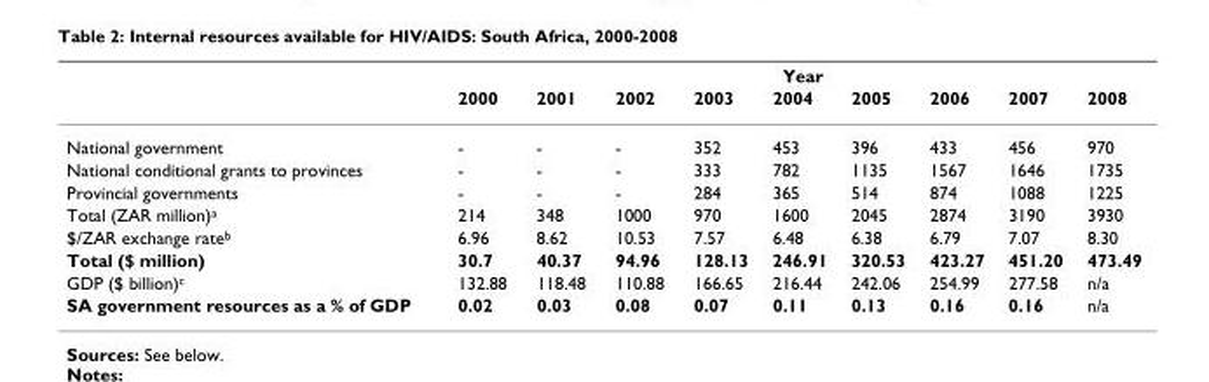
<table><thead><tr><td rowspan="2"></td><td colspan="9">Year</td></tr><tr><td>2000</td><td>2001</td><td>2002</td><td>2003</td><td>2004</td><td>2005</td><td>2006</td><td>2007</td><td>2008</td></tr></thead><tbody><tr><td>National government</td><td>-</td><td>-</td><td>-</td><td>352</td><td>453</td><td>396</td><td>433</td><td>456</td><td>970</td></tr><tr><td>National conditional grants to provinces</td><td>-</td><td>-</td><td>-</td><td>333</td><td>782</td><td>1135</td><td>1567</td><td>1646</td><td>1735</td></tr><tr><td>Provincial governments</td><td>-</td><td>-</td><td>-</td><td>284</td><td>365</td><td>514</td><td>874</td><td>1088</td><td>1225</td></tr><tr><td>Total (ZAR million)<sup>a</sup></td><td>214</td><td>348</td><td>1000</td><td>970</td><td>1600</td><td>2045</td><td>2874</td><td>3190</td><td>3930</td></tr><tr><td>$/ZAR exchange rate<sup>b</sup></td><td>6.96</td><td>8.62</td><td>10.53</td><td>7.57</td><td>6.48</td><td>6.38</td><td>6.79</td><td>7.07</td><td>8.30</td></tr><tr><td>Total ($ million)</td><td>30.7</td><td>40.37</td><td>94.96</td><td>128.13</td><td>246.91</td><td>320.53</td><td>423.27</td><td>451.20</td><td>473.49</td></tr><tr><td>GDP ($ billion)<sup>c</sup></td><td>132.88</td><td>118.48</td><td>110.88</td><td>166.65</td><td>216.44</td><td>242.06</td><td>254.99</td><td>277.58</td><td>n/a</td></tr><tr><td>SA government resources as a % of GDP</td><td>0.02</td><td>0.03</td><td>0.08</td><td>0.07</td><td>0.11</td><td>0.13</td><td>0.16</td><td>0.16</td><td>n/a</td></tr></tbody></table>